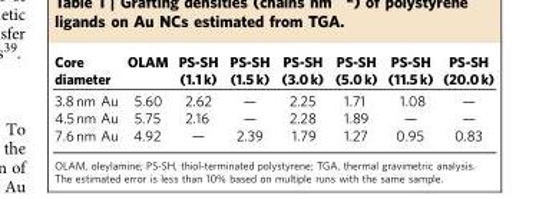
<table><thead><tr><td>Core diameter</td><td>OLAM</td><td>PS-SH (1.1 k)</td><td>PS-SH (1.5 k)</td><td>PS-SH (3.0 k)</td><td>PS-SH (5.0 k)</td><td>PS-SH (11.5 k)</td><td>PS-SH (20.0 k)</td></tr></thead><tbody><tr><td>3.8 nm Au</td><td>5.60</td><td>2.62</td><td>—</td><td>2.25</td><td>1.71</td><td>1.08</td><td>—</td></tr><tr><td>4.5 nm Au</td><td>5.75</td><td>2.16</td><td>—</td><td>2.28</td><td>1.89</td><td>—</td><td>—</td></tr><tr><td>7.6 nm Au</td><td>4.92</td><td>—</td><td>2.39</td><td>1.79</td><td>1.27</td><td>0.95</td><td>0.83</td></tr></tbody></table>